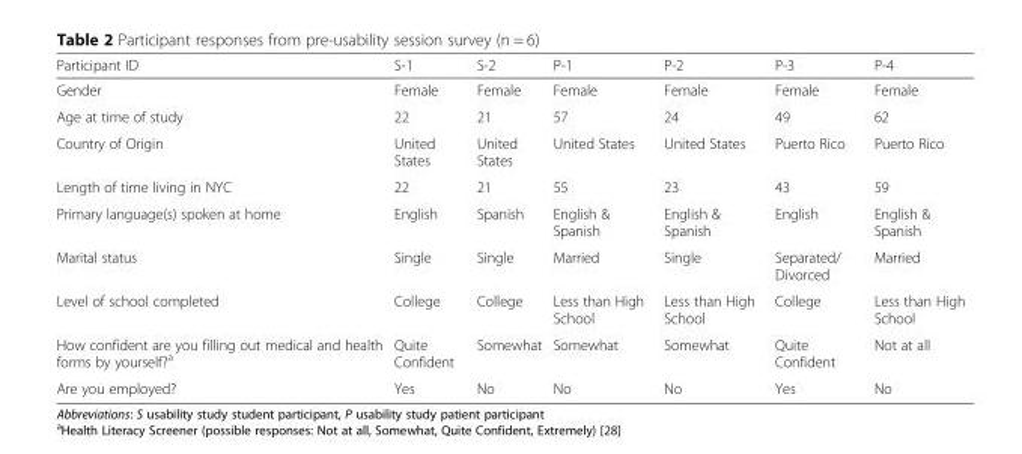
<table><thead><tr><td>Participant ID</td><td>S-1</td><td>S-2</td><td>P-1</td><td>P-2</td><td>P-3</td><td>P-4</td></tr></thead><tbody><tr><td>Gender</td><td>Female</td><td>Female</td><td>Female</td><td>Female</td><td>Female</td><td>Female</td></tr><tr><td>Age at time of study</td><td>22</td><td>21</td><td>57</td><td>24</td><td>49</td><td>62</td></tr><tr><td>Country of Origin</td><td>United States</td><td>United States</td><td>United States</td><td>United States</td><td>Puerto Rico</td><td>Puerto Rico</td></tr><tr><td>Length of time living in NYC</td><td>22</td><td>21</td><td>55</td><td>23</td><td>43</td><td>59</td></tr><tr><td>Primary language(s) spoken at home</td><td>English</td><td>Spanish</td><td>English &amp; Spanish</td><td>English &amp; Spanish</td><td>English</td><td>English &amp; Spanish</td></tr><tr><td>Marital status</td><td>Single</td><td>Single</td><td>Married</td><td>Single</td><td>Separated/ Divorced</td><td>Married</td></tr><tr><td>Level of school completed</td><td>College</td><td>College</td><td>Less than High School</td><td>Less than High School</td><td>College</td><td>Less than High School</td></tr><tr><td>How confident are you filling out medical and health forms by yourself?<sup>a</sup></td><td>Quite Confident</td><td>Somewhat</td><td>Somewhat</td><td>Somewhat</td><td>Quite Confident</td><td>Not at all</td></tr><tr><td>Are you employed?</td><td>Yes</td><td>No</td><td>No</td><td>No</td><td>Yes</td><td>No</td></tr></tbody></table>